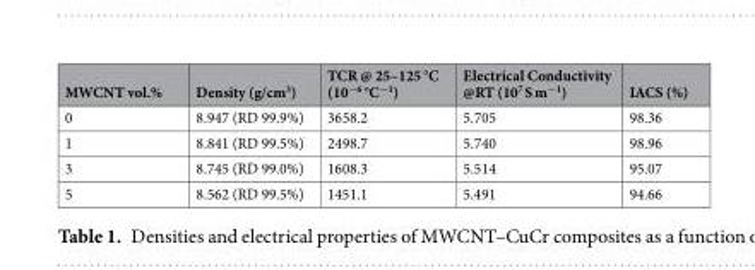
<table><thead><tr><td>MWCNT vol.%</td><td>Density (g/cm<sup>3</sup>)</td><td>TCR @ 25–125 °C (10<sup>−6</sup> °C<sup>−1</sup>)</td><td>Electrical Conductivity @RT (10<sup>7</sup> S m<sup>−1</sup>)</td><td>IACS (%)</td></tr></thead><tbody><tr><td>0</td><td>8.947 (RD 99.9%)</td><td>3658.2</td><td>5.705</td><td>98.36</td></tr><tr><td>1</td><td>8.841 (RD 99.5%)</td><td>2498.7</td><td>5.740</td><td>98.96</td></tr><tr><td>3</td><td>8.745 (RD 99.0%)</td><td>1608.3</td><td>5.514</td><td>95.07</td></tr><tr><td>5</td><td>8.562 (RD 99.5%)</td><td>1451.1</td><td>5.491</td><td>94.66</td></tr></tbody></table>